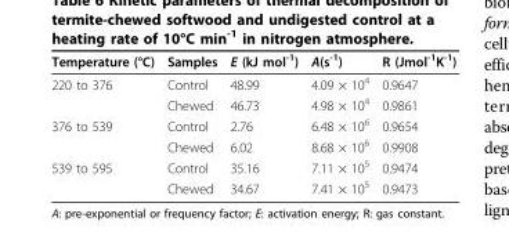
<table><thead><tr><td>Temperature (°C)</td><td>Samples</td><td>E (kJ mol<sup>-1</sup>)</td><td>A(s<sup>-1</sup>)</td><td>R (Jmol<sup>-1</sup>K<sup>-1</sup>)</td></tr></thead><tbody><tr><td rowspan="2">220 to 376</td><td>Control</td><td>48.99</td><td>4.09 × 10<sup>4</sup></td><td>0.9647</td></tr><tr><td>Chewed</td><td>46.73</td><td>4.98 × 10<sup>4</sup></td><td>0.9861</td></tr><tr><td rowspan="2">376 to 539</td><td>Control</td><td>2.76</td><td>6.48 × 10<sup>6</sup></td><td>0.9654</td></tr><tr><td>Chewed</td><td>6.02</td><td>8.68 × 10<sup>6</sup></td><td>0.9908</td></tr><tr><td rowspan="2">539 to 595</td><td>Control</td><td>35.16</td><td>7.11 × 10<sup>5</sup></td><td>0.9474</td></tr><tr><td>Chewed</td><td>34.67</td><td>7.41 × 10<sup>5</sup></td><td>0.9473</td></tr></tbody></table>